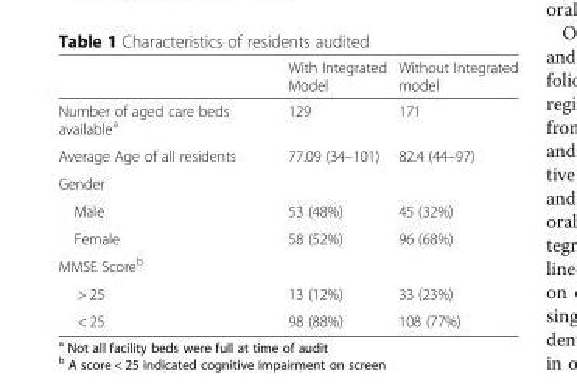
<table><thead><tr><td></td><td>With Integrated Model</td><td>Without Integrated model</td></tr></thead><tbody><tr><td>Number of aged care beds available<sup>a</sup></td><td>129</td><td>171</td></tr><tr><td>Average Age of all residents</td><td>77.09 (34–101)</td><td>82.4 (44–97)</td></tr><tr><td colspan="3">Gender</td></tr><tr><td>Male</td><td>53 (48%)</td><td>45 (32%)</td></tr><tr><td>Female</td><td>58 (52%)</td><td>96 (68%)</td></tr><tr><td colspan="3">MMSE Score<sup>b</sup></td></tr><tr><td>&gt; 25</td><td>13 (12%)</td><td>33 (23%)</td></tr><tr><td>&lt; 25</td><td>98 (88%)</td><td>108 (77%)</td></tr></tbody></table>